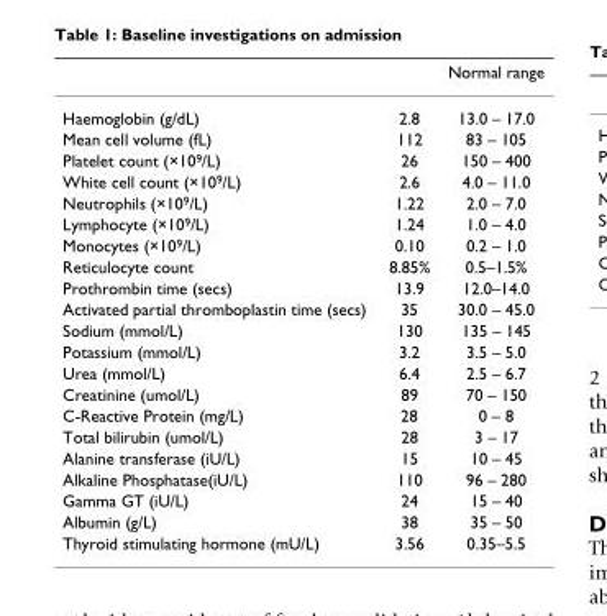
<table><thead><tr><td></td><td></td><td>Normal range</td></tr></thead><tbody><tr><td>Haemoglobin (g/dL)</td><td>2.8</td><td>13.0 – 17.0</td></tr><tr><td>Mean cell volume (fL)</td><td>112</td><td>83 – 105</td></tr><tr><td>Platelet count (×10<sup>9</sup>/L)</td><td>26</td><td>150 – 400</td></tr><tr><td>White cell count (×10<sup>9</sup>/L)</td><td>2.6</td><td>4.0 – 11.0</td></tr><tr><td>Neutrophils (×10<sup>9</sup>/L)</td><td>1.22</td><td>2.0 – 7.0</td></tr><tr><td>Lymphocyte (×10<sup>9</sup>/L)</td><td>1.24</td><td>1.0 – 4.0</td></tr><tr><td>Monocytes (×10<sup>9</sup>/L)</td><td>0.10</td><td>0.2 – 1.0</td></tr><tr><td>Reticulocyte count</td><td>8.85%</td><td>0.5–1.5%</td></tr><tr><td>Prothrombin time (secs)</td><td>13.9</td><td>12.0–14.0</td></tr><tr><td>Activated partial thromboplastin time (secs)</td><td>35</td><td>30.0 – 45.0</td></tr><tr><td>Sodium (mmol/L)</td><td>130</td><td>135 – 145</td></tr><tr><td>Potassium (mmol/L)</td><td>3.2</td><td>3.5 – 5.0</td></tr><tr><td>Urea (mmol/L)</td><td>6.4</td><td>2.5 – 6.7</td></tr><tr><td>Creatinine (umol/L)</td><td>89</td><td>70 – 150</td></tr><tr><td>C-Reactive Protein (mg/L)</td><td>28</td><td>0 – 8</td></tr><tr><td>Total bilirubin (umol/L)</td><td>28</td><td>3 – 17</td></tr><tr><td>Alanine transferase (iU/L)</td><td>15</td><td>10 – 45</td></tr><tr><td>Alkaline Phosphatase(iU/L)</td><td>110</td><td>96 – 280</td></tr><tr><td>Gamma GT (iU/L)</td><td>24</td><td>15 – 40</td></tr><tr><td>Albumin (g/L)</td><td>38</td><td>35 – 50</td></tr><tr><td>Thyroid stimulating hormone (mU/L)</td><td>3.56</td><td>0.35–5.5</td></tr></tbody></table>